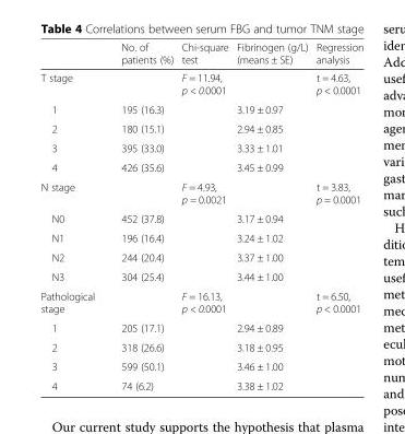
<table><thead><tr><td></td><td>No. of patients (%)</td><td>Chi-square test</td><td>Fibrinogen (g/L) (means ± SE)</td><td>Regression analysis</td></tr></thead><tbody><tr><td>T stage</td><td></td><td>F = 11.94, p &lt; 0.0001</td><td></td><td>t = 4.63, p &lt; 0.0001</td></tr><tr><td>1</td><td>195 (16.3)</td><td></td><td>3.19 ± 0.97</td><td></td></tr><tr><td>2</td><td>180 (15.1)</td><td></td><td>2.94 ± 0.85</td><td></td></tr><tr><td>3</td><td>395 (33.0)</td><td></td><td>3.33 ± 1.01</td><td></td></tr><tr><td>4</td><td>426 (35.6)</td><td></td><td>3.45 ± 0.99</td><td></td></tr><tr><td>N stage</td><td></td><td>F = 4.93, p = 0.0021</td><td></td><td>t = 3.83, p = 0.0001</td></tr><tr><td>N0</td><td>452 (37.8)</td><td></td><td>3.17 ± 0.94</td><td></td></tr><tr><td>N1</td><td>196 (16.4)</td><td></td><td>3.24 ± 1.02</td><td></td></tr><tr><td>N2</td><td>244 (20.4)</td><td></td><td>3.37 ± 1.00</td><td></td></tr><tr><td>N3</td><td>304 (25.4)</td><td></td><td>3.44 ± 1.00</td><td></td></tr><tr><td>Pathological stage</td><td></td><td>F = 16.13, p &lt; 0.0001</td><td></td><td>t = 6.50, p &lt; 0.0001</td></tr><tr><td>1</td><td>205 (17.1)</td><td></td><td>2.94 ± 0.89</td><td></td></tr><tr><td>2</td><td>318 (26.6)</td><td></td><td>3.18 ± 0.95</td><td></td></tr><tr><td>3</td><td>599 (50.1)</td><td></td><td>3.46 ± 1.00</td><td></td></tr><tr><td>4</td><td>74 (6.2)</td><td></td><td>3.38 ± 1.02</td><td></td></tr></tbody></table>